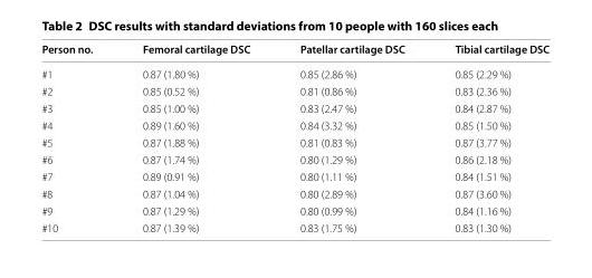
<table><thead><tr><td>Person no.</td><td>Femoral cartilage DSC</td><td>Patellar cartilage DSC</td><td>Tibial cartilage DSC</td></tr></thead><tbody><tr><td>#1</td><td>0.87 (1.80 %)</td><td>0.85 (2.86 %)</td><td>0.85 (2.29 %)</td></tr><tr><td>#2</td><td>0.85 (0.52 %)</td><td>0.81 (0.86 %)</td><td>0.83 (2.36 %)</td></tr><tr><td>#3</td><td>0.85 (1.00 %)</td><td>0.83 (2.47 %)</td><td>0.84 (2.87 %)</td></tr><tr><td>#4</td><td>0.89 (1.60 %)</td><td>0.84 (3.32 %)</td><td>0.85 (1.50 %)</td></tr><tr><td>#5</td><td>0.87 (1.88 %)</td><td>0.81 (0.83 %)</td><td>0.87 (3.77 %)</td></tr><tr><td>#6</td><td>0.87 (1.74 %)</td><td>0.80 (1.29 %)</td><td>0.86 (2.18 %)</td></tr><tr><td>#7</td><td>0.89 (0.91 %)</td><td>0.80 (1.11 %)</td><td>0.84 (1.51 %)</td></tr><tr><td>#8</td><td>0.87 (1.04 %)</td><td>0.80 (2.89 %)</td><td>0.87 (3.60 %)</td></tr><tr><td>#9</td><td>0.87 (1.29 %)</td><td>0.80 (0.99 %)</td><td>0.84 (1.16 %)</td></tr><tr><td>#10</td><td>0.87 (1.39 %)</td><td>0.83 (1.75 %)</td><td>0.83 (1.30 %)</td></tr></tbody></table>